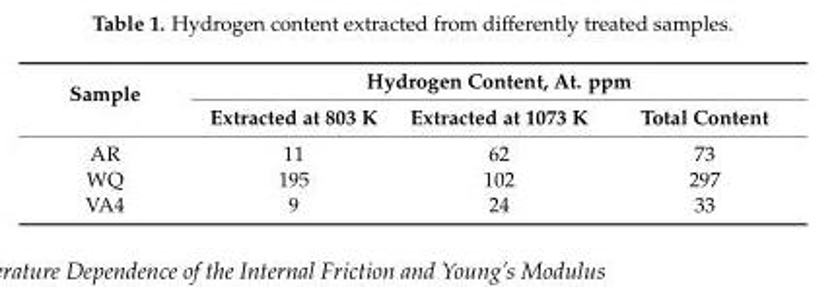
<table><thead><tr><td rowspan="2">Sample</td><td colspan="3">Hydrogen Content, At. ppm</td></tr><tr><td>Extracted at 803 K</td><td>Extracted at 1073 K</td><td>Total Content</td></tr></thead><tbody><tr><td>AR</td><td>11</td><td>62</td><td>73</td></tr><tr><td>WQ</td><td>195</td><td>102</td><td>297</td></tr><tr><td>VA4</td><td>9</td><td>24</td><td>33</td></tr></tbody></table>